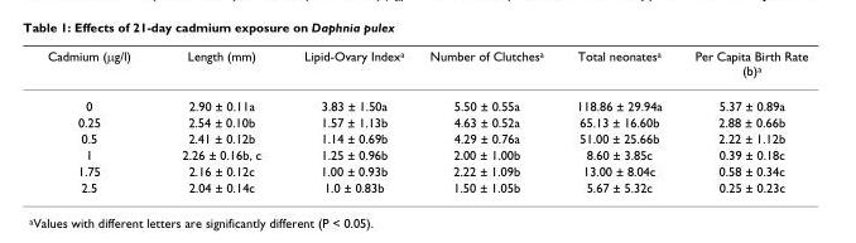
<table><thead><tr><td>Cadmium (μg/l)</td><td>Length (mm)</td><td>Lipid-Ovary Index<sup>a</sup></td><td>Number of Clutches<sup>a</sup></td><td>Total neonates<sup>a</sup></td><td>Per Capita Birth Rate (b)<sup>a</sup></td></tr></thead><tbody><tr><td>0</td><td>2.90 ± 0.11a</td><td>3.83 ± 1.50a</td><td>5.50 ± 0.55a</td><td>118.86 ± 29.94a</td><td>5.37 ± 0.89a</td></tr><tr><td>0.25</td><td>2.54 ± 0.10b</td><td>1.57 ± 1.13b</td><td>4.63 ± 0.52a</td><td>65.13 ± 16.60b</td><td>2.88 ± 0.66b</td></tr><tr><td>0.5</td><td>2.41 ± 0.12b</td><td>1.14 ± 0.69b</td><td>4.29 ± 0.76a</td><td>51.00 ± 25.66b</td><td>2.22 ± 1.12b</td></tr><tr><td>1</td><td>2.26 ± 0.16b, c</td><td>1.25 ± 0.96b</td><td>2.00 ± 1.00b</td><td>8.60 ± 3.85c</td><td>0.39 ± 0.18c</td></tr><tr><td>1.75</td><td>2.16 ± 0.12c</td><td>1.00 ± 0.93b</td><td>2.22 ± 1.09b</td><td>13.00 ± 8.04c</td><td>0.58 ± 0.34c</td></tr><tr><td>2.5</td><td>2.04 ± 0.14c</td><td>1.0 ± 0.83b</td><td>1.50 ± 1.05b</td><td>5.67 ± 5.32c</td><td>0.25 ± 0.23c</td></tr></tbody></table>